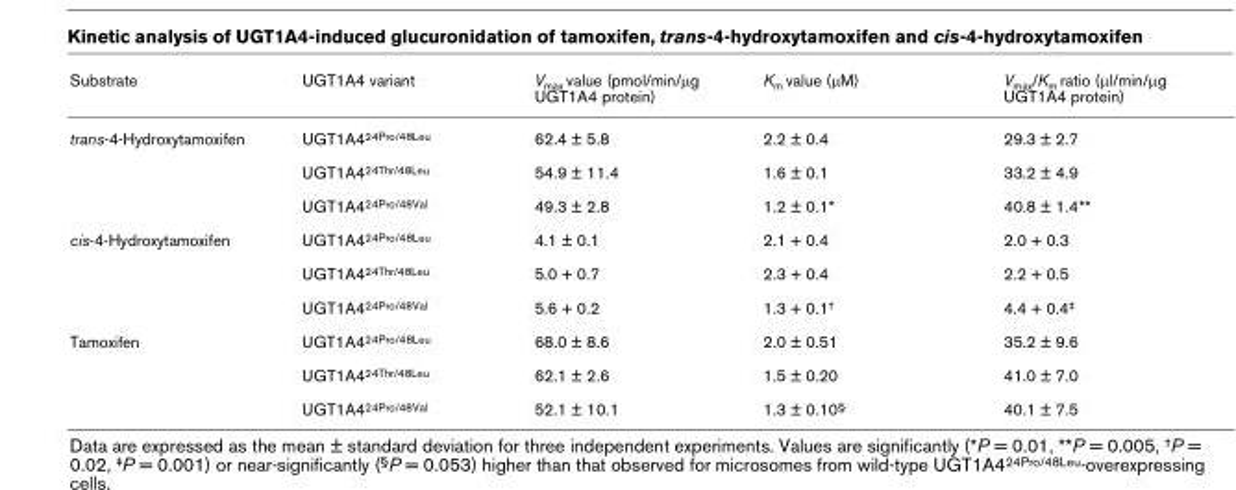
<table><thead><tr><td>Substrate</td><td>UGT1A4 variant</td><td>Vmax value (pmol/min/µg UGT1A4 protein)</td><td>Km value (µM)</td><td>Vmax/Km ratio (µl/min/µg UGT1A4 protein)</td></tr></thead><tbody><tr><td rowspan="3">trans-4-Hydroxytamoxifen</td><td>UGT1A424Pro/48Leu</td><td>62.4 ± 5.8</td><td>2.2 ± 0.4</td><td>29.3 ± 2.7</td></tr><tr><td>UGT1A424Thr/48Leu</td><td>54.9 ± 11.4</td><td>1.6 ± 0.1</td><td>33.2 ± 4.9</td></tr><tr><td>UGT1A424Pro/48Val</td><td>49.3 ± 2.8</td><td>1.2 ± 0.1*</td><td>40.8 ± 1.4**</td></tr><tr><td rowspan="3">cis-4-Hydroxytamoxifen</td><td>UGT1A424Pro/48Leu</td><td>4.1 ± 0.1</td><td>2.1 + 0.4</td><td>2.0 + 0.3</td></tr><tr><td>UGT1A424Thr/48Leu</td><td>5.0 + 0.7</td><td>2.3 + 0.4</td><td>2.2 + 0.5</td></tr><tr><td>UGT1A424Pro/48Val</td><td>5.6 + 0.2</td><td>1.3 + 0.1†</td><td>4.4 + 0.4‡</td></tr><tr><td rowspan="3">Tamoxifen</td><td>UGT1A424Pro/48Leu</td><td>68.0 ± 8.6</td><td>2.0 ± 0.51</td><td>35.2 ± 9.6</td></tr><tr><td>UGT1A424Thr/48Leu</td><td>62.1 ± 2.6</td><td>1.5 ± 0.20</td><td>41.0 ± 7.0</td></tr><tr><td>UGT1A424Pro/48Val</td><td>52.1 ± 10.1</td><td>1.3 ± 0.10§</td><td>40.1 ± 7.5</td></tr></tbody></table>